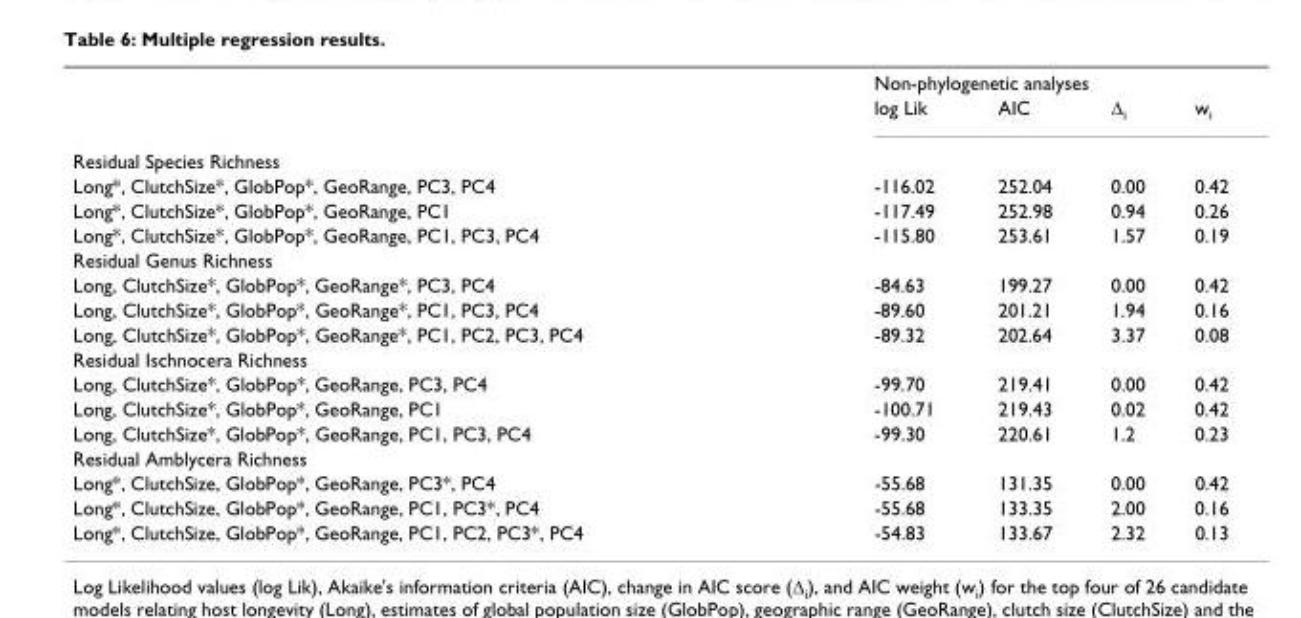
<table><thead><tr><td rowspan="2"></td><td colspan="4">Non-phylogenetic analyses</td></tr><tr><td>log Lik</td><td>AIC</td><td>Δ<sub>i</sub></td><td>w<sub>i</sub></td></tr></thead><tbody><tr><td colspan="5">Residual Species Richness</td></tr><tr><td>Long*, ClutchSize*, GlobPop*, GeoRange, PC3, PC4</td><td>-116.02</td><td>252.04</td><td>0.00</td><td>0.42</td></tr><tr><td>Long*, ClutchSize*, GlobPop*, GeoRange, PC1</td><td>-117.49</td><td>252.98</td><td>0.94</td><td>0.26</td></tr><tr><td>Long*, ClutchSize*, GlobPop*, GeoRange, PC1, PC3, PC4</td><td>-115.80</td><td>253.61</td><td>1.57</td><td>0.19</td></tr><tr><td colspan="5">Residual Genus Richness</td></tr><tr><td>Long, ClutchSize*, GlobPop*, GeoRange*, PC3, PC4</td><td>-84.63</td><td>199.27</td><td>0.00</td><td>0.42</td></tr><tr><td>Long, ClutchSize*, GlobPop*, GeoRange*, PC1, PC3, PC4</td><td>-89.60</td><td>201.21</td><td>1.94</td><td>0.16</td></tr><tr><td>Long, ClutchSize*, GlobPop*, GeoRange*, PC1, PC2, PC3, PC4</td><td>-89.32</td><td>202.64</td><td>3.37</td><td>0.08</td></tr><tr><td colspan="5">Residual Ischnocera Richness</td></tr><tr><td>Long, ClutchSize*, GlobPop*, GeoRange, PC3, PC4</td><td>-99.70</td><td>219.41</td><td>0.00</td><td>0.42</td></tr><tr><td>Long, ClutchSize*, GlobPop*, GeoRange, PC1</td><td>-100.71</td><td>219.43</td><td>0.02</td><td>0.42</td></tr><tr><td>Long, ClutchSize*, GlobPop*, GeoRange, PC1, PC3, PC4</td><td>-99.30</td><td>220.61</td><td>1.2</td><td>0.23</td></tr><tr><td colspan="5">Residual Amblycera Richness</td></tr><tr><td>Long*, ClutchSize, GlobPop*, GeoRange, PC3*, PC4</td><td>-55.68</td><td>131.35</td><td>0.00</td><td>0.42</td></tr><tr><td>Long*, ClutchSize, GlobPop*, GeoRange, PC1, PC3*, PC4</td><td>-55.68</td><td>133.35</td><td>2.00</td><td>0.16</td></tr><tr><td>Long*, ClutchSize, GlobPop*, GeoRange, PC1, PC2, PC3*, PC4</td><td>-54.83</td><td>133.67</td><td>2.32</td><td>0.13</td></tr></tbody></table>